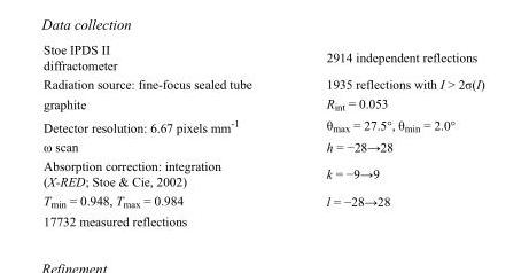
<table><tbody><tr><td>Stoe IPDS II diffractometer</td><td>2914 independent reflections</td></tr><tr><td>Radiation source: fine-focus sealed tube</td><td>1935 reflections with I &gt; 2σ(I)</td></tr><tr><td>graphite</td><td>R<sub>int</sub> = 0.053</td></tr><tr><td>Detector resolution: 6.67 pixels mm<sup>-1</sup></td><td>θ<sub>max</sub> = 27.5°, θ<sub>min</sub> = 2.0°</td></tr><tr><td>ω scan</td><td>h = −28→28</td></tr><tr><td>Absorption correction: integration (X-RED; Stoe &amp; Cie, 2002)</td><td>k = −9→9</td></tr><tr><td>T<sub>min</sub> = 0.948, T<sub>max</sub> = 0.984</td><td>l = −28→28</td></tr><tr><td>17732 measured reflections</td><td></td></tr></tbody></table>